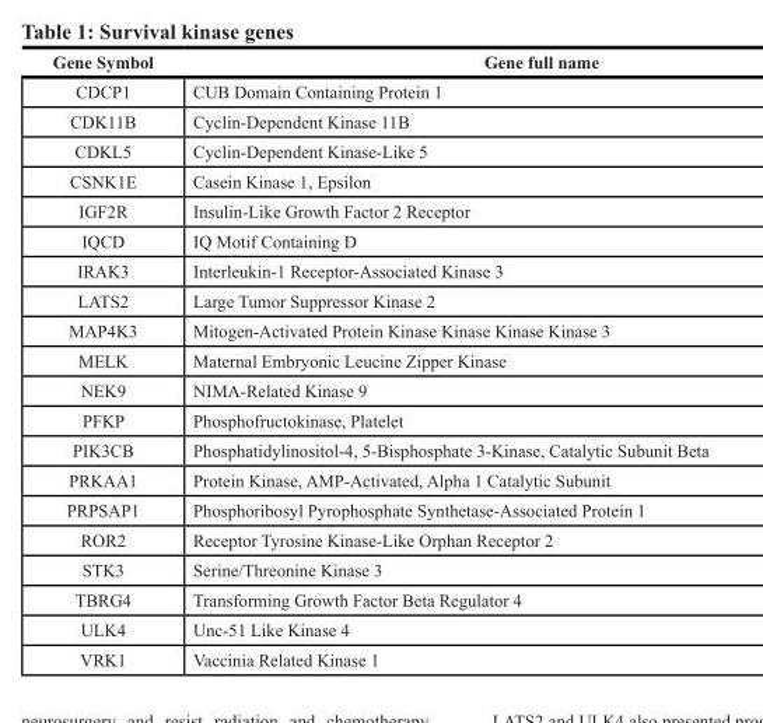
<table><thead><tr><td>Gene Symbol</td><td>Gene full name</td></tr></thead><tbody><tr><td>CDCP1</td><td>CUB Domain Containing Protein 1</td></tr><tr><td>CDK11B</td><td>Cyclin-Dependent Kinase 11B</td></tr><tr><td>CDKL5</td><td>Cyclin-Dependent Kinase-Like 5</td></tr><tr><td>CSNK1E</td><td>Casein Kinase 1, Epsilon</td></tr><tr><td>IGF2R</td><td>Insulin-Like Growth Factor 2 Receptor</td></tr><tr><td>IQCD</td><td>IQ Motif Containing D</td></tr><tr><td>IRAK3</td><td>Interleukin-1 Receptor-Associated Kinase 3</td></tr><tr><td>LATS2</td><td>Large Tumor Suppressor Kinase 2</td></tr><tr><td>MAP4K3</td><td>Mitogen-Activated Protein Kinase Kinase Kinase Kinase 3</td></tr><tr><td>MELK</td><td>Maternal Embryonic Leucine Zipper Kinase</td></tr><tr><td>NEK9</td><td>NIMA-Related Kinase 9</td></tr><tr><td>PFKP</td><td>Phosphofructokinase, Platelet</td></tr><tr><td>PIK3CB</td><td>Phosphatidylinositol-4, 5-Bisphosphate 3-Kinase, Catalytic Subunit Beta</td></tr><tr><td>PRKAA1</td><td>Protein Kinase, AMP-Activated, Alpha 1 Catalytic Subunit</td></tr><tr><td>PRPSAP1</td><td>Phosphoribosyl Pyrophosphate Synthetase-Associated Protein 1</td></tr><tr><td>ROR2</td><td>Receptor Tyrosine Kinase-Like Orphan Receptor 2</td></tr><tr><td>STK3</td><td>Serine/Threonine Kinase 3</td></tr><tr><td>TBRG4</td><td>Transforming Growth Factor Beta Regulator 4</td></tr><tr><td>ULK4</td><td>Unc-51 Like Kinase 4</td></tr><tr><td>VRK1</td><td>Vaccinia Related Kinase 1</td></tr></tbody></table>